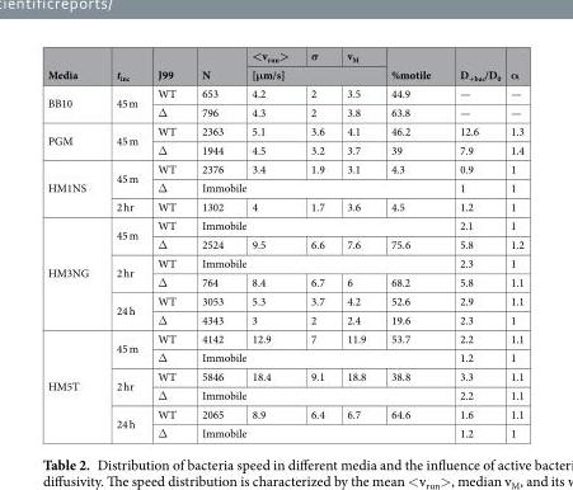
<table><thead><tr><td rowspan="2">Media</td><td rowspan="2">t<sub>inc</sub></td><td rowspan="2">J99</td><td rowspan="2">N</td><td>&lt;v<sub>run</sub>&gt;</td><td>σ</td><td>v<sub>M</sub></td><td rowspan="2">%motile</td><td rowspan="2">D<sub>+bac</sub>/D<sub>0</sub></td><td rowspan="2">α</td></tr><tr><td colspan="3">[μm/s]</td></tr></thead><tbody><tr><td rowspan="2">BB10</td><td rowspan="2">45 m</td><td>WT</td><td>653</td><td>4.2</td><td>2</td><td>3.5</td><td>44.9</td><td>—</td><td>—</td></tr><tr><td>Δ</td><td>796</td><td>4.3</td><td>2</td><td>3.8</td><td>63.8</td><td>—</td><td>—</td></tr><tr><td rowspan="2">PGM</td><td rowspan="2">45 m</td><td>WT</td><td>2363</td><td>5.1</td><td>3.6</td><td>4.1</td><td>46.2</td><td>12.6</td><td>1.3</td></tr><tr><td>Δ</td><td>1944</td><td>4.5</td><td>3.2</td><td>3.7</td><td>39</td><td>7.9</td><td>1.4</td></tr><tr><td rowspan="3">HM1NS</td><td rowspan="2">45 m</td><td>WT</td><td>2376</td><td>3.4</td><td>1.9</td><td>3.1</td><td>4.3</td><td>0.9</td><td>1</td></tr><tr><td>Δ</td><td colspan="5">Immobile</td><td>1</td><td>1</td></tr><tr><td>2 hr</td><td>WT</td><td>1302</td><td>4</td><td>1.7</td><td>3.6</td><td>4.5</td><td>1.2</td><td>1</td></tr><tr><td rowspan="6">HM3NG</td><td rowspan="2">45 m</td><td>WT</td><td colspan="5">Immobile</td><td>2.1</td><td>1</td></tr><tr><td>Δ</td><td>2524</td><td>9.5</td><td>6.6</td><td>7.6</td><td>75.6</td><td>5.8</td><td>1.2</td></tr><tr><td rowspan="2">2 hr</td><td>WT</td><td colspan="5">Immobile</td><td>2.3</td><td>1</td></tr><tr><td>Δ</td><td>764</td><td>8.4</td><td>6.7</td><td>6</td><td>68.2</td><td>5.8</td><td>1.1</td></tr><tr><td rowspan="2">24 h</td><td>WT</td><td>3053</td><td>5.3</td><td>3.7</td><td>4.2</td><td>52.6</td><td>2.9</td><td>1.1</td></tr><tr><td>Δ</td><td>4343</td><td>3</td><td>2</td><td>2.4</td><td>19.6</td><td>2.3</td><td>1</td></tr><tr><td rowspan="6">HM5T</td><td rowspan="2">45 m</td><td>WT</td><td>4142</td><td>12.9</td><td>7</td><td>11.9</td><td>53.7</td><td>2.2</td><td>1.1</td></tr><tr><td>Δ</td><td colspan="5">Immobile</td><td>1.2</td><td>1</td></tr><tr><td rowspan="2">2 hr</td><td>WT</td><td>5846</td><td>18.4</td><td>9.1</td><td>18.8</td><td>38.8</td><td>3.3</td><td>1.1</td></tr><tr><td>Δ</td><td colspan="5">Immobile</td><td>2.2</td><td>1.1</td></tr><tr><td rowspan="2">24 h</td><td>WT</td><td>2065</td><td>8.9</td><td>6.4</td><td>6.7</td><td>64.6</td><td>1.6</td><td>1.1</td></tr><tr><td>Δ</td><td colspan="5">Immobile</td><td>1.2</td><td>1</td></tr></tbody></table>